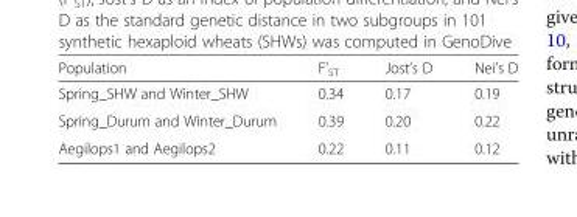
<table><thead><tr><td>Population</td><td>F’<sub>ST</sub></td><td>Jost’s D</td><td>Nei’s D</td></tr></thead><tbody><tr><td>Spring_SHW and Winter_SHW</td><td>0.34</td><td>0.17</td><td>0.19</td></tr><tr><td>Spring_Durum and Winter_Durum</td><td>0.39</td><td>0.20</td><td>0.22</td></tr><tr><td>Aegilops1 and Aegilops2</td><td>0.22</td><td>0.11</td><td>0.12</td></tr></tbody></table>